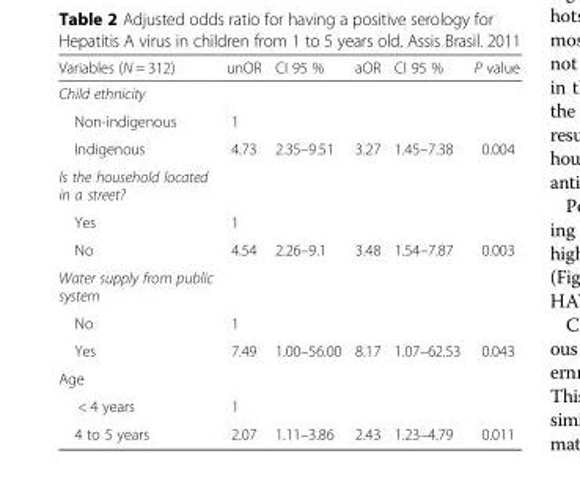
<table><thead><tr><td>Variables (N = 312)</td><td>unOR</td><td>CI 95 %</td><td>aOR</td><td>CI 95 %</td><td>P value</td></tr></thead><tbody><tr><td colspan="6">Child ethnicity</td></tr><tr><td>Non-indigenous</td><td>1</td><td></td><td></td><td></td><td></td></tr><tr><td>Indigenous</td><td>4.73</td><td>2.35–9.51</td><td>3.27</td><td>1.45–7.38</td><td>0.004</td></tr><tr><td colspan="6">Is the household located in a street?</td></tr><tr><td>Yes</td><td>1</td><td></td><td></td><td></td><td></td></tr><tr><td>No</td><td>4.54</td><td>2.26–9.1</td><td>3.48</td><td>1.54–7.87</td><td>0.003</td></tr><tr><td colspan="6">Water supply from public system</td></tr><tr><td>No</td><td>1</td><td></td><td></td><td></td><td></td></tr><tr><td>Yes</td><td>7.49</td><td>1.00–56.00</td><td>8.17</td><td>1.07–62.53</td><td>0.043</td></tr><tr><td colspan="6">Age</td></tr><tr><td>&lt; 4 years</td><td>1</td><td></td><td></td><td></td><td></td></tr><tr><td>4 to 5 years</td><td>2.07</td><td>1.11–3.86</td><td>2.43</td><td>1.23–4.79</td><td>0.011</td></tr></tbody></table>